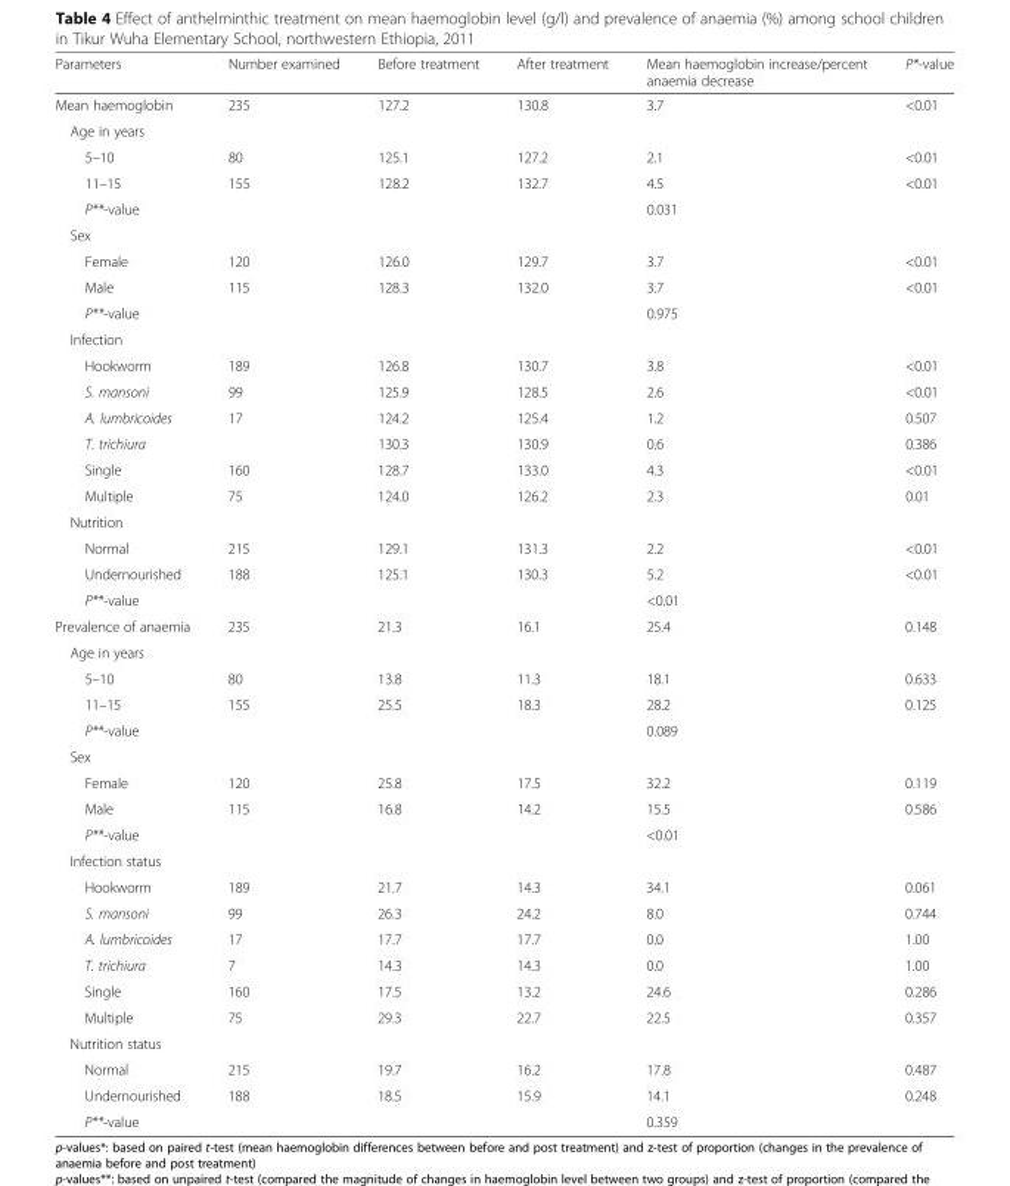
<table><thead><tr><td>Parameters</td><td>Number examined</td><td>Before treatment</td><td>After treatment</td><td>Mean haemoglobin increase/percent anaemia decrease</td><td>P*-value</td></tr></thead><tbody><tr><td>Mean haemoglobin</td><td>235</td><td>127.2</td><td>130.8</td><td>3.7</td><td>&lt;0.01</td></tr><tr><td colspan="6">Age in years</td></tr><tr><td>5–10</td><td>80</td><td>125.1</td><td>127.2</td><td>2.1</td><td>&lt;0.01</td></tr><tr><td>11–15</td><td>155</td><td>128.2</td><td>132.7</td><td>4.5</td><td>&lt;0.01</td></tr><tr><td>P**-value</td><td></td><td></td><td></td><td>0.031</td><td></td></tr><tr><td colspan="6">Sex</td></tr><tr><td>Female</td><td>120</td><td>126.0</td><td>129.7</td><td>3.7</td><td>&lt;0.01</td></tr><tr><td>Male</td><td>115</td><td>128.3</td><td>132.0</td><td>3.7</td><td>&lt;0.01</td></tr><tr><td>P**-value</td><td></td><td></td><td></td><td>0.975</td><td></td></tr><tr><td colspan="6">Infection</td></tr><tr><td>Hookworm</td><td>189</td><td>126.8</td><td>130.7</td><td>3.8</td><td>&lt;0.01</td></tr><tr><td>S. mansoni</td><td>99</td><td>125.9</td><td>128.5</td><td>2.6</td><td>&lt;0.01</td></tr><tr><td>A. lumbricoides</td><td>17</td><td>124.2</td><td>125.4</td><td>1.2</td><td>0.507</td></tr><tr><td>T. trichiura</td><td></td><td>130.3</td><td>130.9</td><td>0.6</td><td>0.386</td></tr><tr><td>Single</td><td>160</td><td>128.7</td><td>133.0</td><td>4.3</td><td>&lt;0.01</td></tr><tr><td>Multiple</td><td>75</td><td>124.0</td><td>126.2</td><td>2.3</td><td>0.01</td></tr><tr><td colspan="6">Nutrition</td></tr><tr><td>Normal</td><td>215</td><td>129.1</td><td>131.3</td><td>2.2</td><td>&lt;0.01</td></tr><tr><td>Undernourished</td><td>188</td><td>125.1</td><td>130.3</td><td>5.2</td><td>&lt;0.01</td></tr><tr><td>P**-value</td><td></td><td></td><td></td><td>&lt;0.01</td><td></td></tr><tr><td>Prevalence of anaemia</td><td>235</td><td>21.3</td><td>16.1</td><td>25.4</td><td>0.148</td></tr><tr><td colspan="6">Age in years</td></tr><tr><td>5–10</td><td>80</td><td>13.8</td><td>11.3</td><td>18.1</td><td>0.633</td></tr><tr><td>11–15</td><td>155</td><td>25.5</td><td>18.3</td><td>28.2</td><td>0.125</td></tr><tr><td>P**-value</td><td></td><td></td><td></td><td>0.089</td><td></td></tr><tr><td colspan="6">Sex</td></tr><tr><td>Female</td><td>120</td><td>25.8</td><td>17.5</td><td>32.2</td><td>0.119</td></tr><tr><td>Male</td><td>115</td><td>16.8</td><td>14.2</td><td>15.5</td><td>0.586</td></tr><tr><td>P**-value</td><td></td><td></td><td></td><td>&lt;0.01</td><td></td></tr><tr><td colspan="6">Infection status</td></tr><tr><td>Hookworm</td><td>189</td><td>21.7</td><td>14.3</td><td>34.1</td><td>0.061</td></tr><tr><td>S. mansoni</td><td>99</td><td>26.3</td><td>24.2</td><td>8.0</td><td>0.744</td></tr><tr><td>A. lumbricoides</td><td>17</td><td>17.7</td><td>17.7</td><td>0.0</td><td>1.00</td></tr><tr><td>T. trichiura</td><td>7</td><td>14.3</td><td>14.3</td><td>0.0</td><td>1.00</td></tr><tr><td>Single</td><td>160</td><td>17.5</td><td>13.2</td><td>24.6</td><td>0.286</td></tr><tr><td>Multiple</td><td>75</td><td>29.3</td><td>22.7</td><td>22.5</td><td>0.357</td></tr><tr><td colspan="6">Nutrition status</td></tr><tr><td>Normal</td><td>215</td><td>19.7</td><td>16.2</td><td>17.8</td><td>0.487</td></tr><tr><td>Undernourished</td><td>188</td><td>18.5</td><td>15.9</td><td>14.1</td><td>0.248</td></tr><tr><td>P**-value</td><td></td><td></td><td></td><td>0.359</td><td></td></tr></tbody></table>